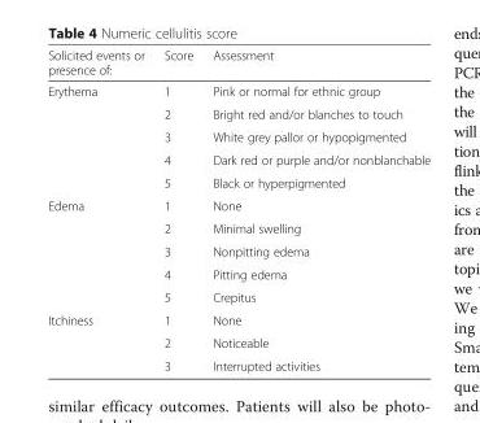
<table><thead><tr><td>Solicited events or presence of:</td><td>Score</td><td>Assessment</td></tr></thead><tbody><tr><td rowspan="5">Erythema</td><td>1</td><td>Pink or normal for ethnic group</td></tr><tr><td>2</td><td>Bright red and/or blanches to touch</td></tr><tr><td>3</td><td>White grey pallor or hypopigmented</td></tr><tr><td>4</td><td>Dark red or purple and/or nonblanchable</td></tr><tr><td>5</td><td>Black or hyperpigmented</td></tr><tr><td rowspan="5">Edema</td><td>1</td><td>None</td></tr><tr><td>2</td><td>Minimal swelling</td></tr><tr><td>3</td><td>Nonpitting edema</td></tr><tr><td>4</td><td>Pitting edema</td></tr><tr><td>5</td><td>Crepitus</td></tr><tr><td rowspan="3">Itchiness</td><td>1</td><td>None</td></tr><tr><td>2</td><td>Noticeable</td></tr><tr><td>3</td><td>Interrupted activities</td></tr></tbody></table>